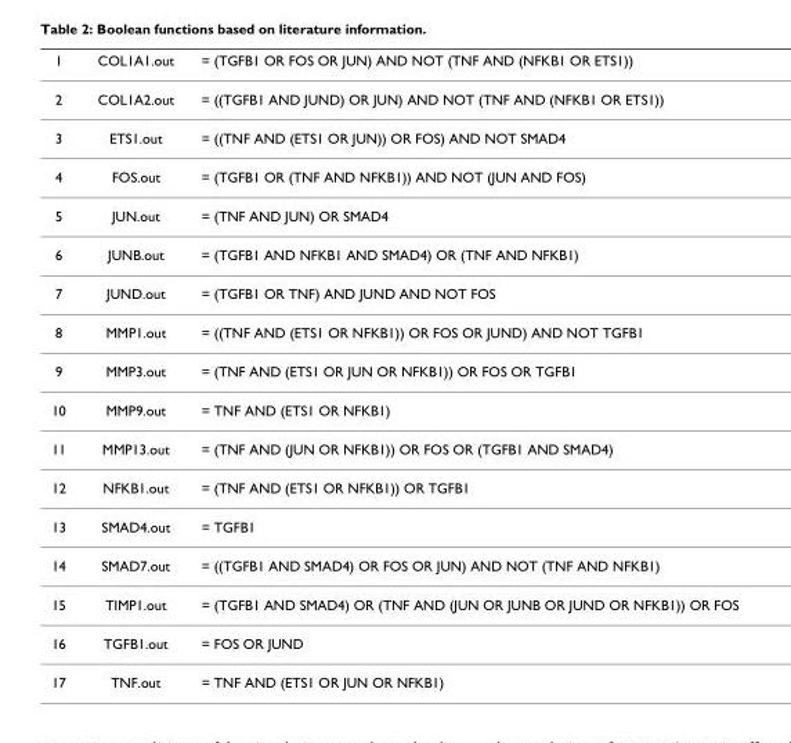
<table><thead><tr><td>1</td><td>COL1A1.out</td><td>= (TGFB1 OR FOS OR JUN) AND NOT (TNF AND (NFKB1 OR ETS1))</td></tr></thead><tbody><tr><td>2</td><td>COL1A2.out</td><td>= ((TGFB1 AND JUND) OR JUN) AND NOT (TNF AND (NFKB1 OR ETS1))</td></tr><tr><td>3</td><td>ETS1.out</td><td>= ((TNF AND (ETS1 OR JUN)) OR FOS) AND NOT SMAD4</td></tr><tr><td>4</td><td>FOS.out</td><td>= (TGFB1 OR (TNF AND NFKB1)) AND NOT (JUN AND FOS)</td></tr><tr><td>5</td><td>JUN.out</td><td>= (TNF AND JUN) OR SMAD4</td></tr><tr><td>6</td><td>JUNB.out</td><td>= (TGFB1 AND NFKB1 AND SMAD4) OR (TNF AND NFKB1)</td></tr><tr><td>7</td><td>JUND.out</td><td>= (TGFB1 OR TNF) AND JUND AND NOT FOS</td></tr><tr><td>8</td><td>MMP1.out</td><td>= ((TNF AND (ETS1 OR NFKB1)) OR FOS OR JUND) AND NOT TGFB1</td></tr><tr><td>9</td><td>MMP3.out</td><td>= (TNF AND (ETS1 OR JUN OR NFKB1)) OR FOS OR TGFB1</td></tr><tr><td>10</td><td>MMP9.out</td><td>= TNF AND (ETS1 OR NFKB1)</td></tr><tr><td>11</td><td>MMP13.out</td><td>= (TNF AND (JUN OR NFKB1)) OR FOS OR (TGFB1 AND SMAD4)</td></tr><tr><td>12</td><td>NFKB1.out</td><td>= (TNF AND (ETS1 OR NFKB1)) OR TGFB1</td></tr><tr><td>13</td><td>SMAD4.out</td><td>= TGFB1</td></tr><tr><td>14</td><td>SMAD7.out</td><td>= ((TGFB1 AND SMAD4) OR FOS OR JUN) AND NOT (TNF AND NFKB1)</td></tr><tr><td>15</td><td>TIMP1.out</td><td>= (TGFB1 AND SMAD4) OR (TNF AND (JUN OR JUNB OR JUND OR NFKB1)) OR FOS</td></tr><tr><td>16</td><td>TGFB1.out</td><td>= FOS OR JUND</td></tr><tr><td>17</td><td>TNF.out</td><td>= TNF AND (ETS1 OR JUN OR NFKB1)</td></tr></tbody></table>